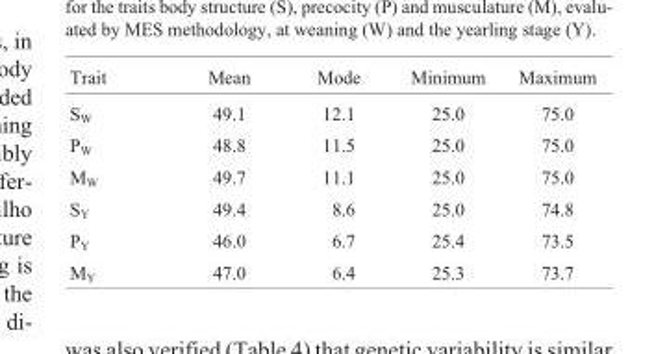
<table><thead><tr><td>Trait</td><td>Mean</td><td>Mode</td><td>Minimum</td><td>Maximum</td></tr></thead><tbody><tr><td>S<sub>W</sub></td><td>49.1</td><td>12.1</td><td>25.0</td><td>75.0</td></tr><tr><td>P<sub>W</sub></td><td>48.8</td><td>11.5</td><td>25.0</td><td>75.0</td></tr><tr><td>M<sub>W</sub></td><td>49.7</td><td>11.1</td><td>25.0</td><td>75.0</td></tr><tr><td>S<sub>Y</sub></td><td>49.4</td><td>8.6</td><td>25.0</td><td>74.8</td></tr><tr><td>P<sub>Y</sub></td><td>46.0</td><td>6.7</td><td>25.4</td><td>73.5</td></tr><tr><td>M<sub>Y</sub></td><td>47.0</td><td>6.4</td><td>25.3</td><td>73.7</td></tr></tbody></table>